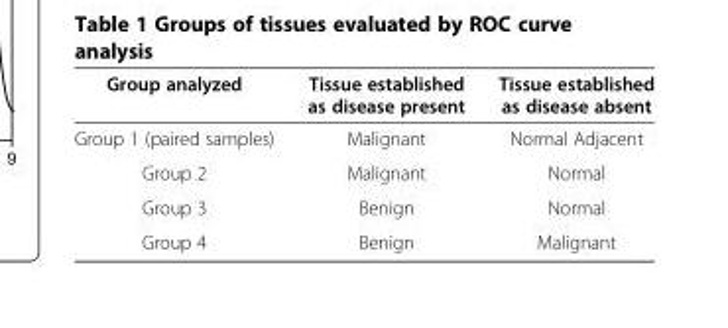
<table><thead><tr><td>Group analyzed</td><td>Tissue established as disease present</td><td>Tissue established as disease absent</td></tr></thead><tbody><tr><td>Group 1 (paired samples)</td><td>Malignant</td><td>Normal Adjacent</td></tr><tr><td>Group 2</td><td>Malignant</td><td>Normal</td></tr><tr><td>Group 3</td><td>Benign</td><td>Normal</td></tr><tr><td>Group 4</td><td>Benign</td><td>Malignant</td></tr></tbody></table>